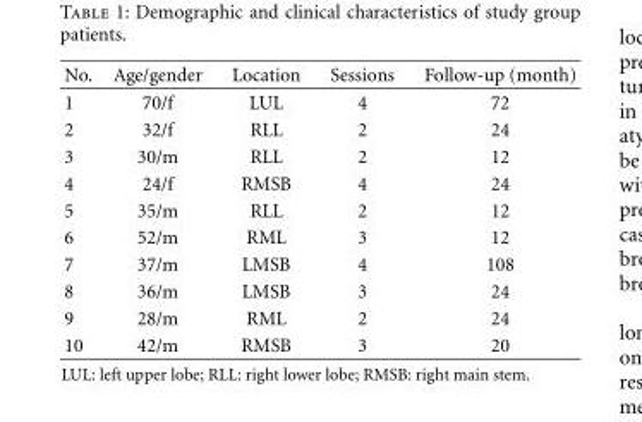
<table><thead><tr><td>No.</td><td>Age/gender</td><td>Location</td><td>Sessions</td><td>Follow-up (month)</td></tr></thead><tbody><tr><td>1</td><td>70/f</td><td>LUL</td><td>4</td><td>72</td></tr><tr><td>2</td><td>32/f</td><td>RLL</td><td>2</td><td>24</td></tr><tr><td>3</td><td>30/m</td><td>RLL</td><td>2</td><td>12</td></tr><tr><td>4</td><td>24/f</td><td>RMSB</td><td>4</td><td>24</td></tr><tr><td>5</td><td>35/m</td><td>RLL</td><td>2</td><td>12</td></tr><tr><td>6</td><td>52/m</td><td>RML</td><td>3</td><td>12</td></tr><tr><td>7</td><td>37/m</td><td>LMSB</td><td>4</td><td>108</td></tr><tr><td>8</td><td>36/m</td><td>LMSB</td><td>3</td><td>24</td></tr><tr><td>9</td><td>28/m</td><td>RML</td><td>2</td><td>24</td></tr><tr><td>10</td><td>42/m</td><td>RMSB</td><td>3</td><td>20</td></tr></tbody></table>